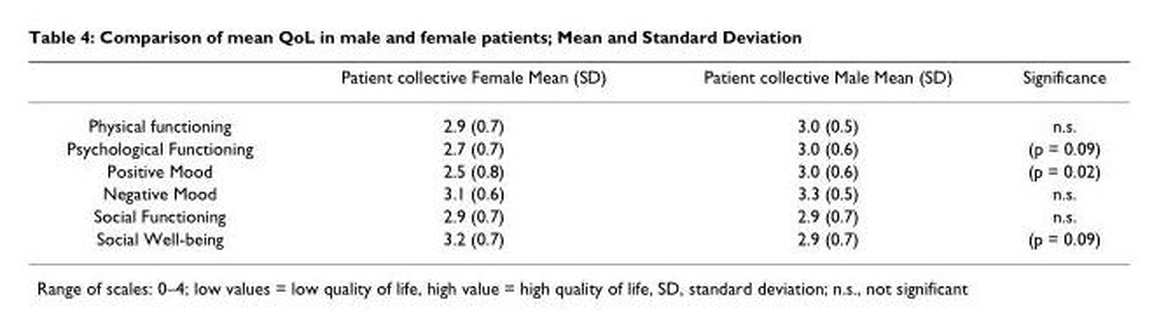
<table><thead><tr><td></td><td>Patient collective Female Mean (SD)</td><td>Patient collective Male Mean (SD)</td><td>Significance</td></tr></thead><tbody><tr><td>Physical functioning</td><td>2.9 (0.7)</td><td>3.0 (0.5)</td><td>n.s.</td></tr><tr><td>Psychological Functioning</td><td>2.7 (0.7)</td><td>3.0 (0.6)</td><td>(p = 0.09)</td></tr><tr><td>Positive Mood</td><td>2.5 (0.8)</td><td>3.0 (0.6)</td><td>(p = 0.02)</td></tr><tr><td>Negative Mood</td><td>3.1 (0.6)</td><td>3.3 (0.5)</td><td>n.s.</td></tr><tr><td>Social Functioning</td><td>2.9 (0.7)</td><td>2.9 (0.7)</td><td>n.s.</td></tr><tr><td>Social Well-being</td><td>3.2 (0.7)</td><td>2.9 (0.7)</td><td>(p = 0.09)</td></tr></tbody></table>